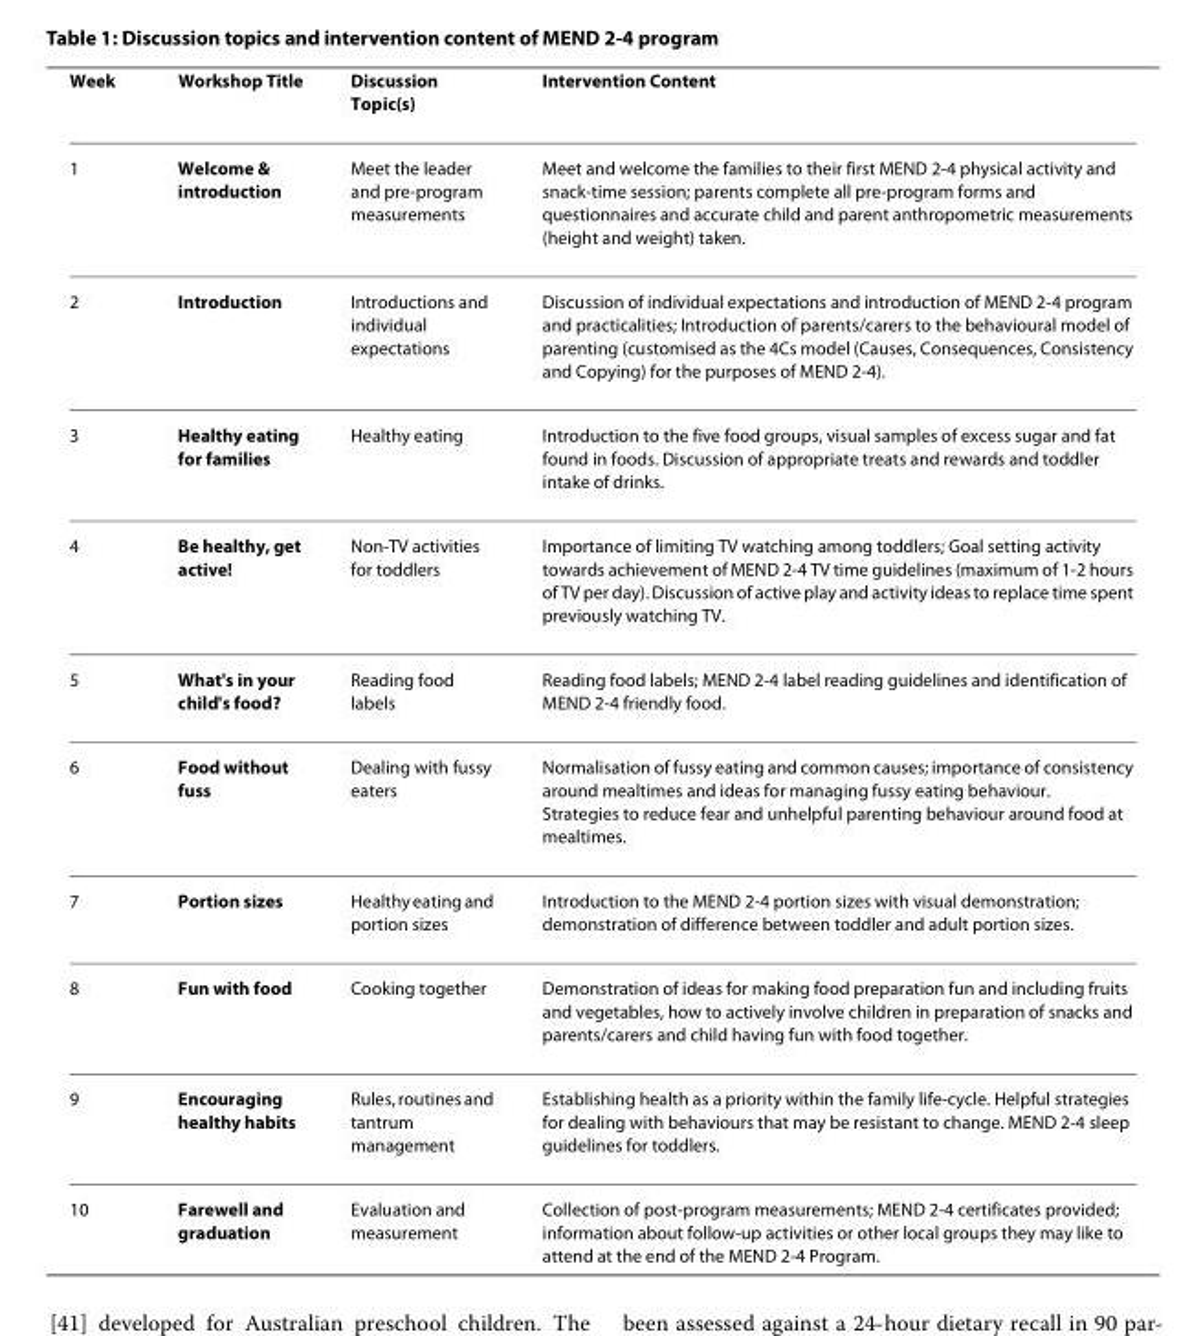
<table><thead><tr><td>Week</td><td>Workshop Title</td><td>Discussion Topic(s)</td><td>Intervention Content</td></tr></thead><tbody><tr><td>1</td><td>Welcome &amp; introduction</td><td>Meet the leader and pre-program measurements</td><td>Meet and welcome the families to their first MEND 2-4 physical activity and snack-time session; parents complete all pre-program forms and questionnaires and accurate child and parent anthropometric measurements (height and weight) taken.</td></tr><tr><td>2</td><td>Introduction</td><td>Introductions and individual expectations</td><td>Discussion of individual expectations and introduction of MEND 2-4 program and practicalities; Introduction of parents/carers to the behavioural model of parenting (customised as the 4Cs model (Causes, Consequences, Consistency and Copying) for the purposes of MEND 2-4).</td></tr><tr><td>3</td><td>Healthy eating for families</td><td>Healthy eating</td><td>Introduction to the five food groups, visual samples of excess sugar and fat found in foods. Discussion of appropriate treats and rewards and toddler intake of drinks.</td></tr><tr><td>4</td><td>Be healthy, get active!</td><td>Non-TV activities for toddlers</td><td>Importance of limiting TV watching among toddlers; Goal setting activity towards achievement of MEND 2-4 TV time guidelines (maximum of 1-2 hours of TV per day). Discussion of active play and activity ideas to replace time spent previously watching TV.</td></tr><tr><td>5</td><td>What&#x27;s in your child&#x27;s food?</td><td>Reading food labels</td><td>Reading food labels; MEND 2-4 label reading guidelines and identification of MEND 2-4 friendly food.</td></tr><tr><td>6</td><td>Food without fuss</td><td>Dealing with fussy eaters</td><td>Normalisation of fussy eating and common causes; importance of consistency around mealtimes and ideas for managing fussy eating behaviour. Strategies to reduce fear and unhelpful parenting behaviour around food at mealtimes.</td></tr><tr><td>7</td><td>Portion sizes</td><td>Healthy eating and portion sizes</td><td>Introduction to the MEND 2-4 portion sizes with visual demonstration; demonstration of difference between toddler and adult portion sizes.</td></tr><tr><td>8</td><td>Fun with food</td><td>Cooking together</td><td>Demonstration of ideas for making food preparation fun and including fruits and vegetables, how to actively involve children in preparation of snacks and parents/carers and child having fun with food together.</td></tr><tr><td>9</td><td>Encouraging healthy habits</td><td>Rules, routines and tantrum management</td><td>Establishing health as a priority within the family life-cycle. Helpful strategies for dealing with behaviours that may be resistant to change. MEND 2-4 sleep guidelines for toddlers.</td></tr><tr><td>10</td><td>Farewell and graduation</td><td>Evaluation and measurement</td><td>Collection of post-program measurements; MEND 2-4 certificates provided; information about follow-up activities or other local groups they may like to attend at the end of the MEND 2-4 Program.</td></tr></tbody></table>